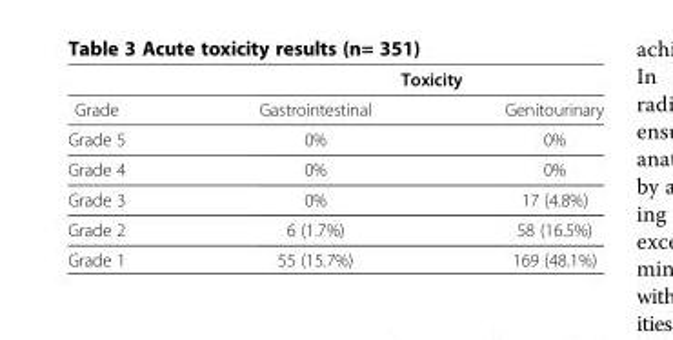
<table><thead><tr><td rowspan="2">Grade</td><td colspan="2">Toxicity</td></tr><tr><td>Gastrointestinal</td><td>Genitourinary</td></tr></thead><tbody><tr><td>Grade 5</td><td>0%</td><td>0%</td></tr><tr><td>Grade 4</td><td>0%</td><td>0%</td></tr><tr><td>Grade 3</td><td>0%</td><td>17 (4.8%)</td></tr><tr><td>Grade 2</td><td>6 (1.7%)</td><td>58 (16.5%)</td></tr><tr><td>Grade 1</td><td>55 (15.7%)</td><td>169 (48.1%)</td></tr></tbody></table>